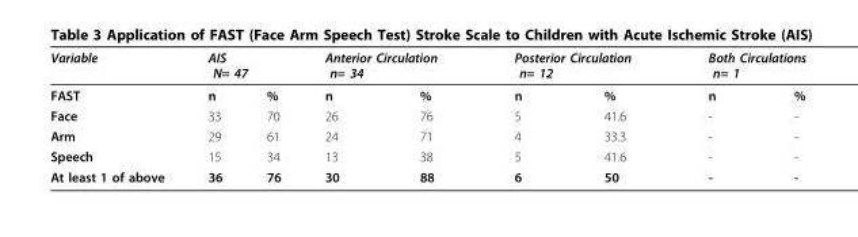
<table><thead><tr><td rowspan="2">Variable FAST</td><td colspan="2">AIS N= 47</td><td colspan="2">Anterior Circulation n= 34</td><td colspan="2">Posterior Circulation n= 12</td><td colspan="2">Both Circulations n= 1</td></tr><tr><td>n</td><td>%</td><td>n</td><td>%</td><td>n</td><td>%</td><td>n</td><td>%</td></tr></thead><tbody><tr><td>Face</td><td>33</td><td>70</td><td>26</td><td>76</td><td>5</td><td>41.6</td><td>-</td><td>-</td></tr><tr><td>Arm</td><td>29</td><td>61</td><td>24</td><td>71</td><td>4</td><td>33.3</td><td>-</td><td>-</td></tr><tr><td>Speech</td><td>15</td><td>34</td><td>13</td><td>38</td><td>5</td><td>41.6</td><td>-</td><td>-</td></tr><tr><td>At least 1 of above</td><td>36</td><td>76</td><td>30</td><td>88</td><td>6</td><td>50</td><td>-</td><td>-</td></tr></tbody></table>